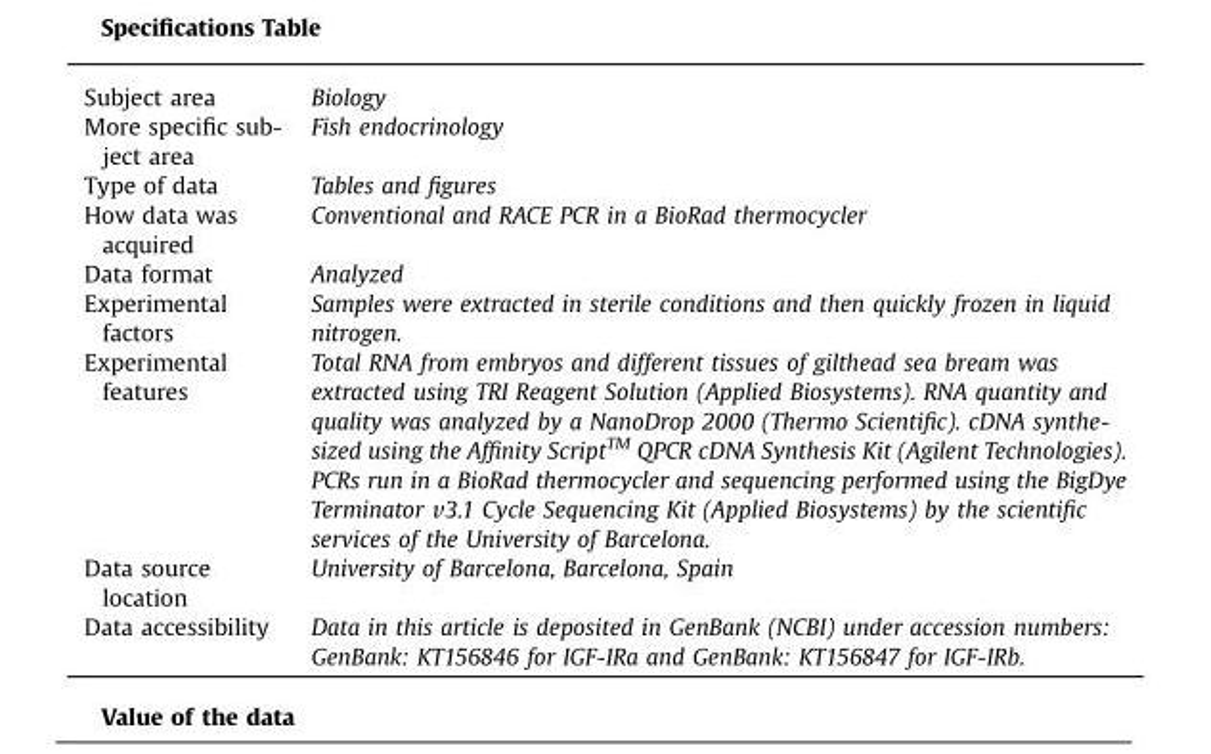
<table><tbody><tr><td>Subject area</td><td>Biology</td></tr><tr><td>More specific sub- ject area</td><td>Fish endocrinology</td></tr><tr><td>Type of data</td><td>Tables and figures</td></tr><tr><td>How data was acquired</td><td>Conventional and RACE PCR in a BioRad thermocycler</td></tr><tr><td>Data format</td><td>Analyzed</td></tr><tr><td>Experimental factors</td><td>Samples were extracted in sterile conditions and then quickly frozen in liquid nitrogen.</td></tr><tr><td>Experimental features</td><td>Total RNA from embryos and different tissues of gilthead sea bream was extracted using TRI Reagent Solution (Applied Biosystems). RNA quantity and quality was analyzed by a NanoDrop 2000 (Thermo Scientific). cDNA synthe- sized using the Affinity ScriptTM QPCR cDNA Synthesis Kit (Agilent Technologies). PCRs run in a BioRad thermocycler and sequencing performed using the BigDye Terminator v3.1 Cycle Sequencing Kit (Applied Biosystems) by the scientific services of the University of Barcelona.</td></tr><tr><td>Data source location</td><td>University of Barcelona, Barcelona, Spain</td></tr><tr><td>Data accessibility</td><td>Data in this article is deposited in GenBank (NCBI) under accession numbers: GenBank: KT156846 for IGF-IRa and GenBank: KT156847 for IGF-IRb.</td></tr></tbody></table>